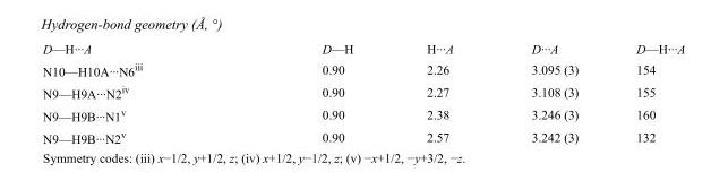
<table><tbody><tr><td>D—H···A</td><td>D—H</td><td>H···A</td><td>D···A</td><td>D—H···A</td></tr><tr><td>N10—H10A···N6<sup>iii</sup></td><td>0.90</td><td>2.26</td><td>3.095 (3)</td><td>154</td></tr><tr><td>N9—H9A···N2<sup>iv</sup></td><td>0.90</td><td>2.27</td><td>3.108 (3)</td><td>155</td></tr><tr><td>N9—H9B···N1<sup>v</sup></td><td>0.90</td><td>2.38</td><td>3.246 (3)</td><td>160</td></tr><tr><td>N9—H9B···N2<sup>v</sup></td><td>0.90</td><td>2.57</td><td>3.242 (3)</td><td>132</td></tr></tbody></table>